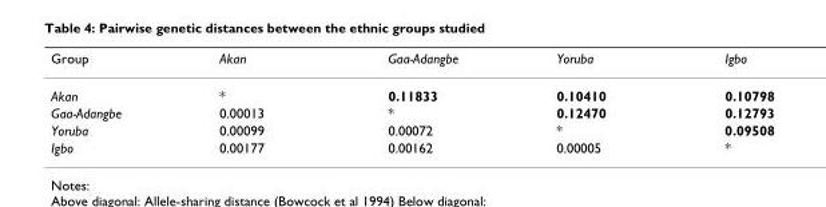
<table><thead><tr><td>Group</td><td>Akan</td><td>Gaa-Adangbe</td><td>Yoruba</td><td>Igbo</td></tr></thead><tbody><tr><td>Akan</td><td>*</td><td>0.11833</td><td>0.10410</td><td>0.10798</td></tr><tr><td>Gaa-Adangbe</td><td>0.00013</td><td>*</td><td>0.12470</td><td>0.12793</td></tr><tr><td>Yoruba</td><td>0.00099</td><td>0.00072</td><td>*</td><td>0.09508</td></tr><tr><td>Igbo</td><td>0.00177</td><td>0.00162</td><td>0.00005</td><td>*</td></tr></tbody></table>